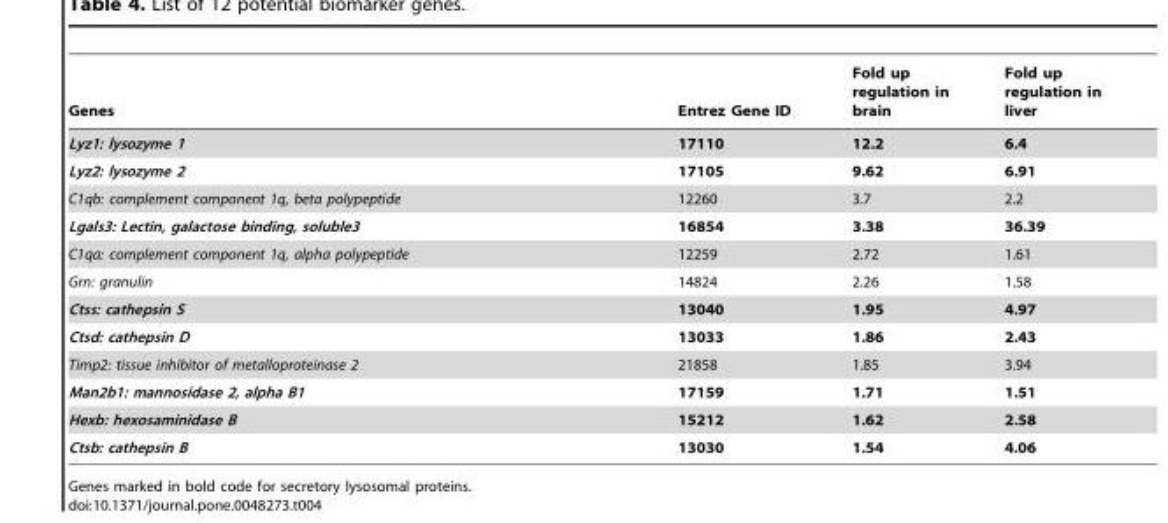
<table><thead><tr><td>Genes</td><td>Entrez Gene ID</td><td>Fold up regulation in brain</td><td>Fold up regulation in liver</td></tr></thead><tbody><tr><td>Lyz1: lysozyme 1</td><td>17110</td><td>12.2</td><td>6.4</td></tr><tr><td>Lyz2: lysozyme 2</td><td>17105</td><td>9.62</td><td>6.91</td></tr><tr><td>C1qb: complement component 1q, beta polypeptide</td><td>12260</td><td>3.7</td><td>2.2</td></tr><tr><td>Lgals3: Lectin, galactose binding, soluble3</td><td>16854</td><td>3.38</td><td>36.39</td></tr><tr><td>C1qa: complement component 1q, alpha polypeptide</td><td>12259</td><td>2.72</td><td>1.61</td></tr><tr><td>Grn: granulin</td><td>14824</td><td>2.26</td><td>1.58</td></tr><tr><td>Ctss: cathepsin S</td><td>13040</td><td>1.95</td><td>4.97</td></tr><tr><td>Ctsd: cathepsin D</td><td>13033</td><td>1.86</td><td>2.43</td></tr><tr><td>Timp2: tissue inhibitor of metalloproteinase 2</td><td>21858</td><td>1.85</td><td>3.94</td></tr><tr><td>Man2b1: mannosidase 2, alpha B1</td><td>17159</td><td>1.71</td><td>1.51</td></tr><tr><td>Hexb: hexosaminidase B</td><td>15212</td><td>1.62</td><td>2.58</td></tr><tr><td>Ctsb: cathepsin B</td><td>13030</td><td>1.54</td><td>4.06</td></tr></tbody></table>